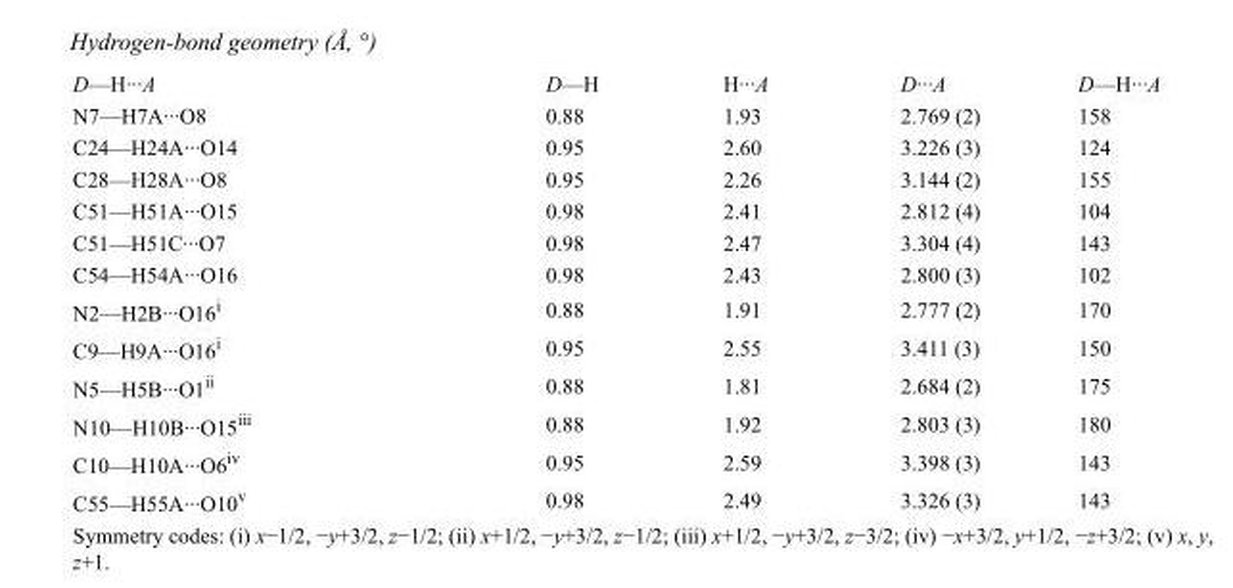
<table><tbody><tr><td>D—H···A</td><td>D—H</td><td>H···A</td><td>D···A</td><td>D—H···A</td></tr><tr><td>N7—H7A···O8</td><td>0.88</td><td>1.93</td><td>2.769 (2)</td><td>158</td></tr><tr><td>C24—H24A···O14</td><td>0.95</td><td>2.60</td><td>3.226 (3)</td><td>124</td></tr><tr><td>C28—H28A···O8</td><td>0.95</td><td>2.26</td><td>3.144 (2)</td><td>155</td></tr><tr><td>C51—H51A···O15</td><td>0.98</td><td>2.41</td><td>2.812 (4)</td><td>104</td></tr><tr><td>C51—H51C···O7</td><td>0.98</td><td>2.47</td><td>3.304 (4)</td><td>143</td></tr><tr><td>C54—H54A···O16</td><td>0.98</td><td>2.43</td><td>2.800 (3)</td><td>102</td></tr><tr><td>N2—H2B···O16<sup>i</sup></td><td>0.88</td><td>1.91</td><td>2.777 (2)</td><td>170</td></tr><tr><td>C9—H9A···O16<sup>i</sup></td><td>0.95</td><td>2.55</td><td>3.411 (3)</td><td>150</td></tr><tr><td>N5—H5B···O1<sup>ii</sup></td><td>0.88</td><td>1.81</td><td>2.684 (2)</td><td>175</td></tr><tr><td>N10—H10B···O15<sup>iii</sup></td><td>0.88</td><td>1.92</td><td>2.803 (3)</td><td>180</td></tr><tr><td>C10—H10A···O6<sup>iv</sup></td><td>0.95</td><td>2.59</td><td>3.398 (3)</td><td>143</td></tr><tr><td>C55—H55A···O10<sup>v</sup></td><td>0.98</td><td>2.49</td><td>3.326 (3)</td><td>143</td></tr></tbody></table>